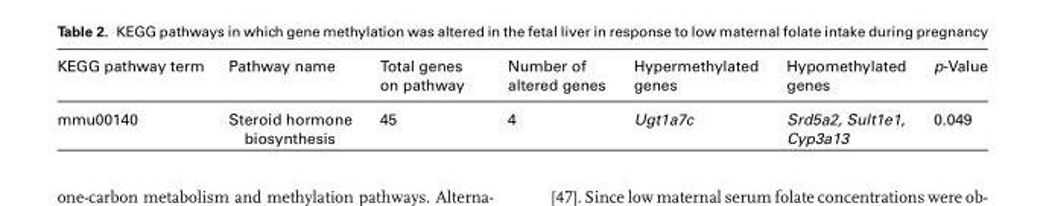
<table><thead><tr><td>KEGG pathway term</td><td>Pathway name</td><td>Total genes on pathway</td><td>Number of altered genes</td><td>Hypermethylated genes</td><td>Hypomethylated genes</td><td>p-Value</td></tr></thead><tbody><tr><td>mmu00140</td><td>Steroid hormone biosynthesis</td><td>45</td><td>4</td><td>Ugt1a7c</td><td>Srd5a2, Sult1e1, Cyp3a13</td><td>0.049</td></tr></tbody></table>